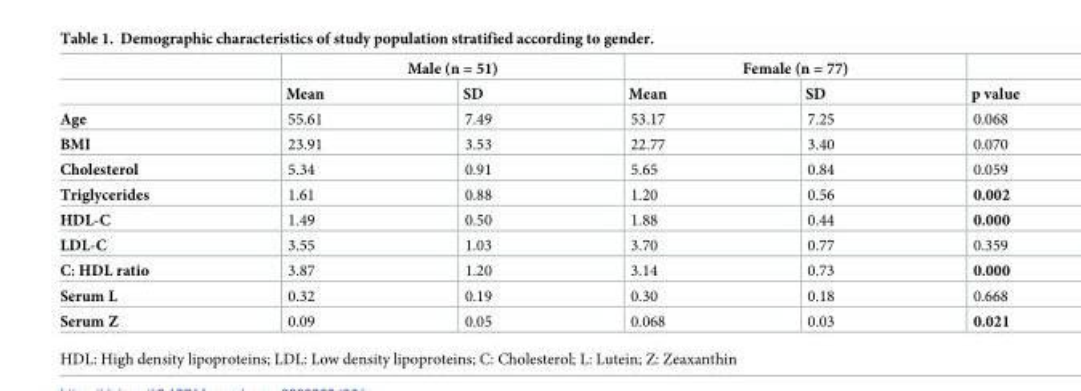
<table><thead><tr><td rowspan="2"></td><td colspan="2">Male (n = 51)</td><td colspan="2">Female (n = 77)</td><td rowspan="2">p value</td></tr><tr><td>Mean</td><td>SD</td><td>Mean</td><td>SD</td></tr></thead><tbody><tr><td>Age</td><td>55.61</td><td>7.49</td><td>53.17</td><td>7.25</td><td>0.068</td></tr><tr><td>BMI</td><td>23.91</td><td>3.53</td><td>22.77</td><td>3.40</td><td>0.070</td></tr><tr><td>Cholesterol</td><td>5.34</td><td>0.91</td><td>5.65</td><td>0.84</td><td>0.059</td></tr><tr><td>Triglycerides</td><td>1.61</td><td>0.88</td><td>1.20</td><td>0.56</td><td>0.002</td></tr><tr><td>HDL-C</td><td>1.49</td><td>0.50</td><td>1.88</td><td>0.44</td><td>0.000</td></tr><tr><td>LDL-C</td><td>3.55</td><td>1.03</td><td>3.70</td><td>0.77</td><td>0.359</td></tr><tr><td>C: HDL ratio</td><td>3.87</td><td>1.20</td><td>3.14</td><td>0.73</td><td>0.000</td></tr><tr><td>Serum L</td><td>0.32</td><td>0.19</td><td>0.30</td><td>0.18</td><td>0.668</td></tr><tr><td>Serum Z</td><td>0.09</td><td>0.05</td><td>0.068</td><td>0.03</td><td>0.021</td></tr></tbody></table>